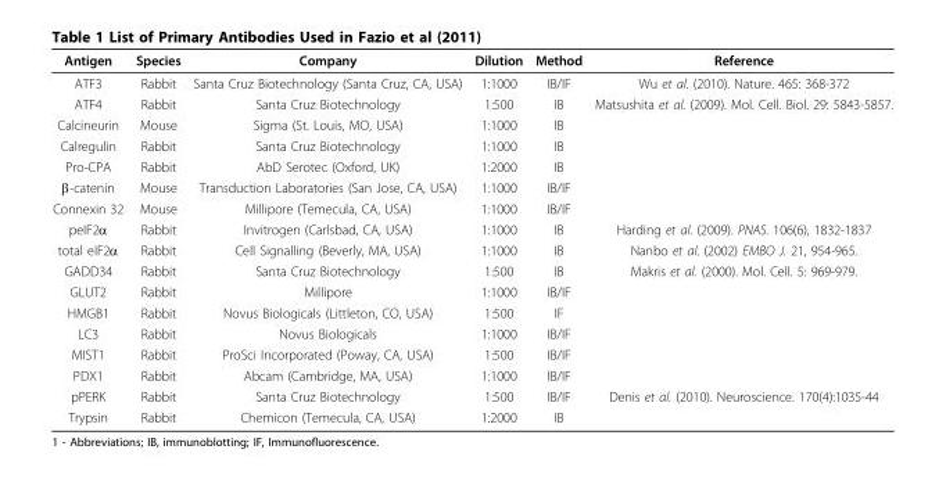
<table><thead><tr><td>Antigen</td><td>Species</td><td>Company</td><td>Dilution</td><td>Method</td><td>Reference</td></tr></thead><tbody><tr><td>ATF3</td><td>Rabbit</td><td>Santa Cruz Biotechnology (Santa Cruz, CA, USA)</td><td>1:1000</td><td>IB/IF</td><td>Wu et al. (2010). Nature. 465: 368-372</td></tr><tr><td>ATF4</td><td>Rabbit</td><td>Santa Cruz Biotechnology</td><td>1:500</td><td>IB</td><td>Matsushita et al. (2009). Mol. Cell. Biol. 29: 5843-5857.</td></tr><tr><td>Calcineurin</td><td>Mouse</td><td>Sigma (St. Louis, MO, USA)</td><td>1:1000</td><td>IB</td><td></td></tr><tr><td>Calregulin</td><td>Rabbit</td><td>Santa Cruz Biotechnology</td><td>1:1000</td><td>IB</td><td></td></tr><tr><td>Pro-CPA</td><td>Rabbit</td><td>AbD Serotec (Oxford, UK)</td><td>1:2000</td><td>IB</td><td></td></tr><tr><td>β-catenin</td><td>Mouse</td><td>Transduction Laboratories (San Jose, CA, USA)</td><td>1:1000</td><td>IB/IF</td><td></td></tr><tr><td>Connexin 32</td><td>Mouse</td><td>Millipore (Temecula, CA, USA)</td><td>1:1000</td><td>IB/IF</td><td></td></tr><tr><td>peIF2α</td><td>Rabbit</td><td>Invitrogen (Carlsbad, CA, USA)</td><td>1:1000</td><td>IB</td><td>Harding et al. (2009). PNAS. 106(6), 1832-1837</td></tr><tr><td>total eIF2α</td><td>Rabbit</td><td>Cell Signalling (Beverly, MA, USA)</td><td>1:1000</td><td>IB</td><td>Nanbo et al. (2002) EMBO J. 21, 954-965.</td></tr><tr><td>GADD34</td><td>Rabbit</td><td>Santa Cruz Biotechnology</td><td>1:500</td><td>IB</td><td>Makris et al. (2000). Mol. Cell. 5: 969-979.</td></tr><tr><td>GLUT2</td><td>Rabbit</td><td>Millipore</td><td>1:1000</td><td>IB/IF</td><td></td></tr><tr><td>HMGB1</td><td>Rabbit</td><td>Novus Biologicals (Littleton, CO, USA)</td><td>1:500</td><td>IF</td><td></td></tr><tr><td>LC3</td><td>Rabbit</td><td>Novus Biologicals</td><td>1:1000</td><td>IB/IF</td><td></td></tr><tr><td>MIST1</td><td>Rabbit</td><td>ProSci Incorporated (Poway, CA, USA)</td><td>1:500</td><td>IB/IF</td><td></td></tr><tr><td>PDX1</td><td>Rabbit</td><td>Abcam (Cambridge, MA, USA)</td><td>1:1000</td><td>IB/IF</td><td></td></tr><tr><td>pPERK</td><td>Rabbit</td><td>Santa Cruz Biotechnology</td><td>1:500</td><td>IB/IF</td><td>Denis et al. (2010). Neuroscience. 170(4):1035-44</td></tr><tr><td>Trypsin</td><td>Rabbit</td><td>Chemicon (Temecula, CA, USA)</td><td>1:2000</td><td>IB</td><td></td></tr></tbody></table>